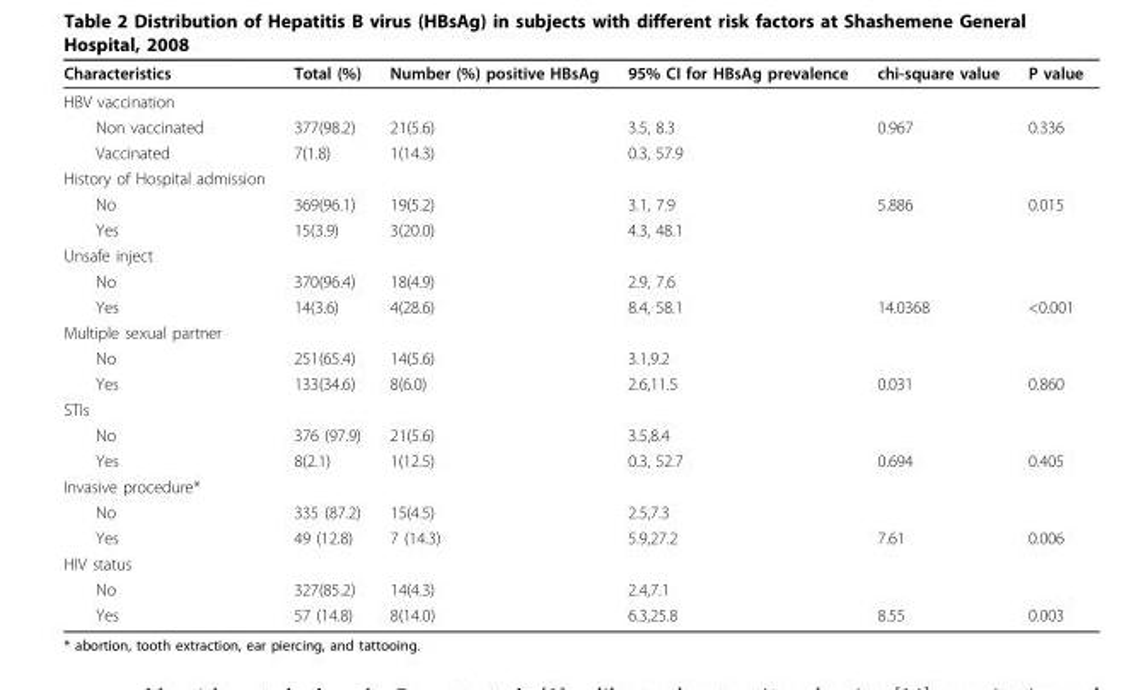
<table><thead><tr><td>Characteristics</td><td>Total (%)</td><td>Number (%) positive HBsAg</td><td>95% CI for HBsAg prevalence</td><td>chi-square value</td><td>P value</td></tr></thead><tbody><tr><td colspan="6">HBV vaccination</td></tr><tr><td>Non vaccinated</td><td>377(98.2)</td><td>21(5.6)</td><td>3.5, 8.3</td><td>0.967</td><td>0.336</td></tr><tr><td>Vaccinated</td><td>7(1.8)</td><td>1(14.3)</td><td>0.3, 57.9</td><td></td><td></td></tr><tr><td colspan="6">History of Hospital admission</td></tr><tr><td>No</td><td>369(96.1)</td><td>19(5.2)</td><td>3.1, 7.9</td><td>5.886</td><td>0.015</td></tr><tr><td>Yes</td><td>15(3.9)</td><td>3(20.0)</td><td>4.3, 48.1</td><td></td><td></td></tr><tr><td colspan="6">Unsafe inject</td></tr><tr><td>No</td><td>370(96.4)</td><td>18(4.9)</td><td>2.9, 7.6</td><td></td><td></td></tr><tr><td>Yes</td><td>14(3.6)</td><td>4(28.6)</td><td>8.4, 58.1</td><td>14.0368</td><td>&lt;0.001</td></tr><tr><td colspan="6">Multiple sexual partner</td></tr><tr><td>No</td><td>251(65.4)</td><td>14(5.6)</td><td>3.1,9.2</td><td></td><td></td></tr><tr><td>Yes</td><td>133(34.6)</td><td>8(6.0)</td><td>2.6,11.5</td><td>0.031</td><td>0.860</td></tr><tr><td colspan="6">STIs</td></tr><tr><td>No</td><td>376 (97.9)</td><td>21(5.6)</td><td>3.5,8.4</td><td></td><td></td></tr><tr><td>Yes</td><td>8(2.1)</td><td>1(12.5)</td><td>0.3, 52.7</td><td>0.694</td><td>0.405</td></tr><tr><td colspan="6">Invasive procedure*</td></tr><tr><td>No</td><td>335 (87.2)</td><td>15(4.5)</td><td>2.5,7.3</td><td></td><td></td></tr><tr><td>Yes</td><td>49 (12.8)</td><td>7 (14.3)</td><td>5.9,27.2</td><td>7.61</td><td>0.006</td></tr><tr><td colspan="6">HIV status</td></tr><tr><td>No</td><td>327(85.2)</td><td>14(4.3)</td><td>2.4,7.1</td><td></td><td></td></tr><tr><td>Yes</td><td>57 (14.8)</td><td>8(14.0)</td><td>6.3,25.8</td><td>8.55</td><td>0.003</td></tr></tbody></table>